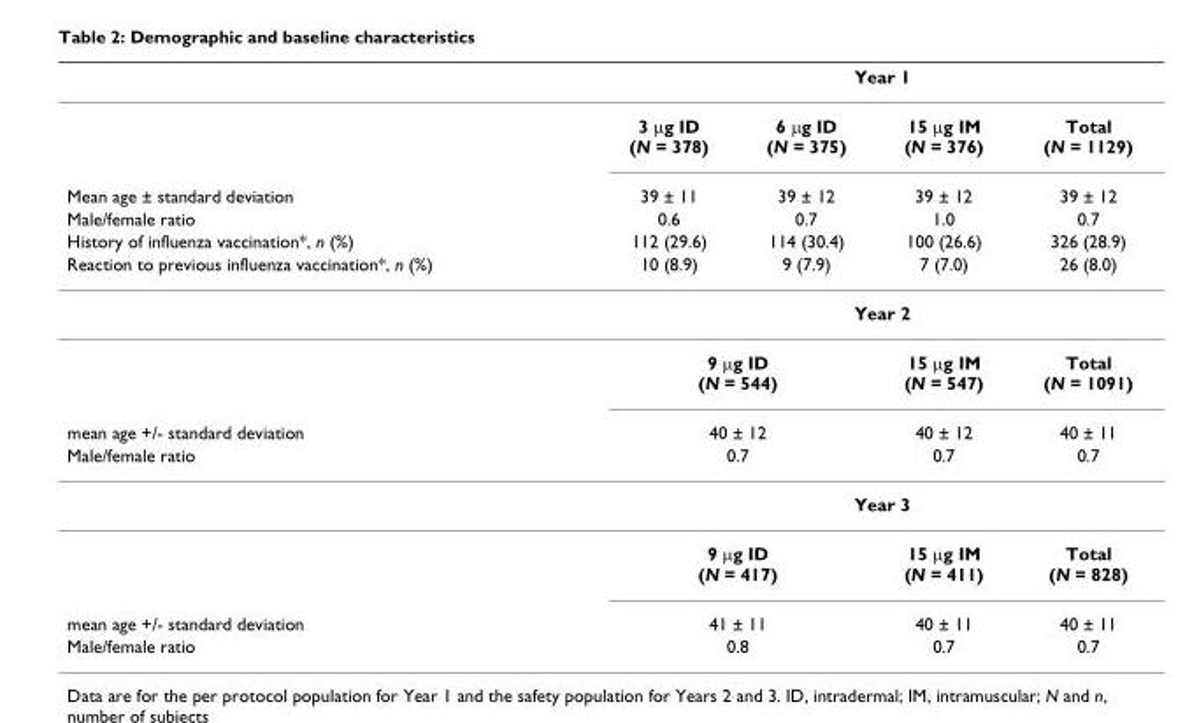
<table><thead><tr><td rowspan="2"></td><td colspan="4">Year 1</td></tr><tr><td>3 μg ID (N = 378)</td><td>6 μg ID (N = 375)</td><td>15 μg IM (N = 376)</td><td>Total (N = 1129)</td></tr></thead><tbody><tr><td>Mean age ± standard deviation</td><td>39 ± 11</td><td>39 ± 12</td><td>39 ± 12</td><td>39 ± 12</td></tr><tr><td>Male/female ratio</td><td>0.6</td><td>0.7</td><td>1.0</td><td>0.7</td></tr><tr><td>History of influenza vaccination*, n (%)</td><td>112 (29.6)</td><td>114 (30.4)</td><td>100 (26.6)</td><td>326 (28.9)</td></tr><tr><td rowspan="3">Reaction to previous influenza vaccination*, n (%)</td><td>10 (8.9)</td><td>9 (7.9)</td><td>7 (7.0)</td><td>26 (8.0)</td></tr><tr><td colspan="4">Year 2</td></tr><tr><td colspan="2">9 μg ID (N = 544)</td><td>15 μg IM (N = 547)</td><td>Total (N = 1091)</td></tr><tr><td>mean age +/- standard deviation</td><td colspan="2">40 ± 12</td><td>40 ± 12</td><td>40 ± 11</td></tr><tr><td rowspan="3">Male/female ratio</td><td colspan="2">0.7</td><td>0.7</td><td>0.7</td></tr><tr><td colspan="4">Year 3</td></tr><tr><td colspan="2">9 μg ID (N = 417)</td><td>15 μg IM (N = 411)</td><td>Total (N = 828)</td></tr><tr><td>mean age +/- standard deviation</td><td colspan="2">41 ± 11</td><td>40 ± 11</td><td>40 ± 11</td></tr><tr><td>Male/female ratio</td><td colspan="2">0.8</td><td>0.7</td><td>0.7</td></tr></tbody></table>